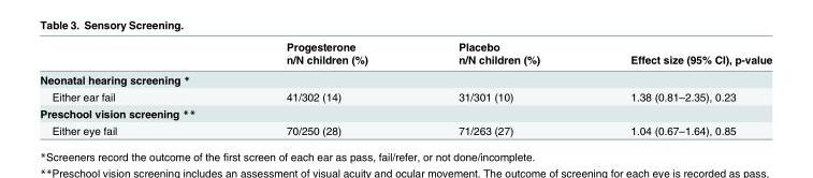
<table><thead><tr><td rowspan="2"></td><td rowspan="2">Progesterone n/N children (%)</td><td rowspan="2">Placebo n/N children (%)</td><td rowspan="2">Effect size (95% CI), p-value</td></tr><tr></tr></thead><tbody><tr><td colspan="4">Neonatal hearing screening *</td></tr><tr><td>Either ear fail</td><td>41/302 (14)</td><td>31/301 (10)</td><td>1.38 (0.81–2.35), 0.23</td></tr><tr><td colspan="4">Preschool vision screening **</td></tr><tr><td>Either eye fail</td><td>70/250 (28)</td><td>71/263 (27)</td><td>1.04 (0.67–1.64), 0.85</td></tr></tbody></table>